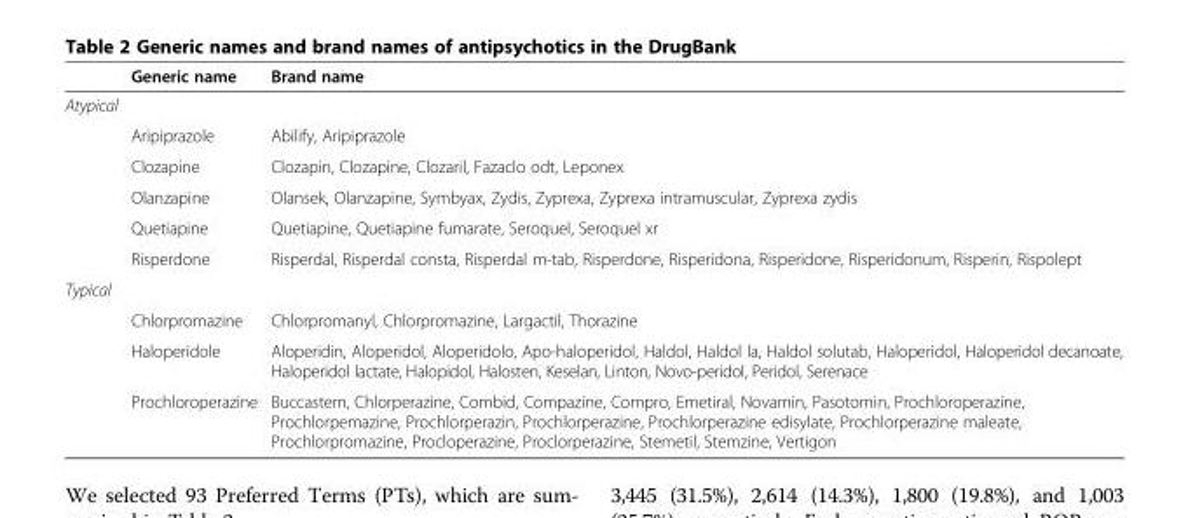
<table><thead><tr><td></td><td>Generic name</td><td>Brand name</td></tr></thead><tbody><tr><td colspan="3">Atypical</td></tr><tr><td></td><td>Aripiprazole</td><td>Abilify, Aripiprazole</td></tr><tr><td></td><td>Clozapine</td><td>Clozapin, Clozapine, Clozaril, Fazaclo odt, Leponex</td></tr><tr><td></td><td>Olanzapine</td><td>Olansek, Olanzapine, Symbyax, Zydis, Zyprexa, Zyprexa intramuscular, Zyprexa zydis</td></tr><tr><td></td><td>Quetiapine</td><td>Quetiapine, Quetiapine fumarate, Seroquel, Seroquel xr</td></tr><tr><td></td><td>Risperdone</td><td>Risperdal, Risperdal consta, Risperdal m-tab, Risperdone, Risperidona, Risperidone, Risperidonum, Risperin, Rispolept</td></tr><tr><td colspan="3">Typical</td></tr><tr><td></td><td>Chlorpromazine</td><td>Chlorpromanyl, Chlorpromazine, Largactil, Thorazine</td></tr><tr><td></td><td>Haloperidole</td><td>Aloperidin, Aloperidol, Aloperidolo, Apo-haloperidol, Haldol, Haldol la, Haldol solutab, Haloperidol, Haloperidol decanoate, Haloperidol lactate, Halopidol, Halosten, Keselan, Linton, Novo-peridol, Peridol, Serenace</td></tr><tr><td></td><td>Prochloroperazine</td><td>Buccastem, Chlorperazine, Combid, Compazine, Compro, Emetiral, Novamin, Pasotomin, Prochloroperazine, Prochlorpemazine, Prochlorperazin, Prochlorperazine, Prochlorperazine edisylate, Prochlorperazine maleate, Prochlorpromazine, Procloperazine, Proclorperazine, Stemetil, Stemzine, Vertigon</td></tr></tbody></table>